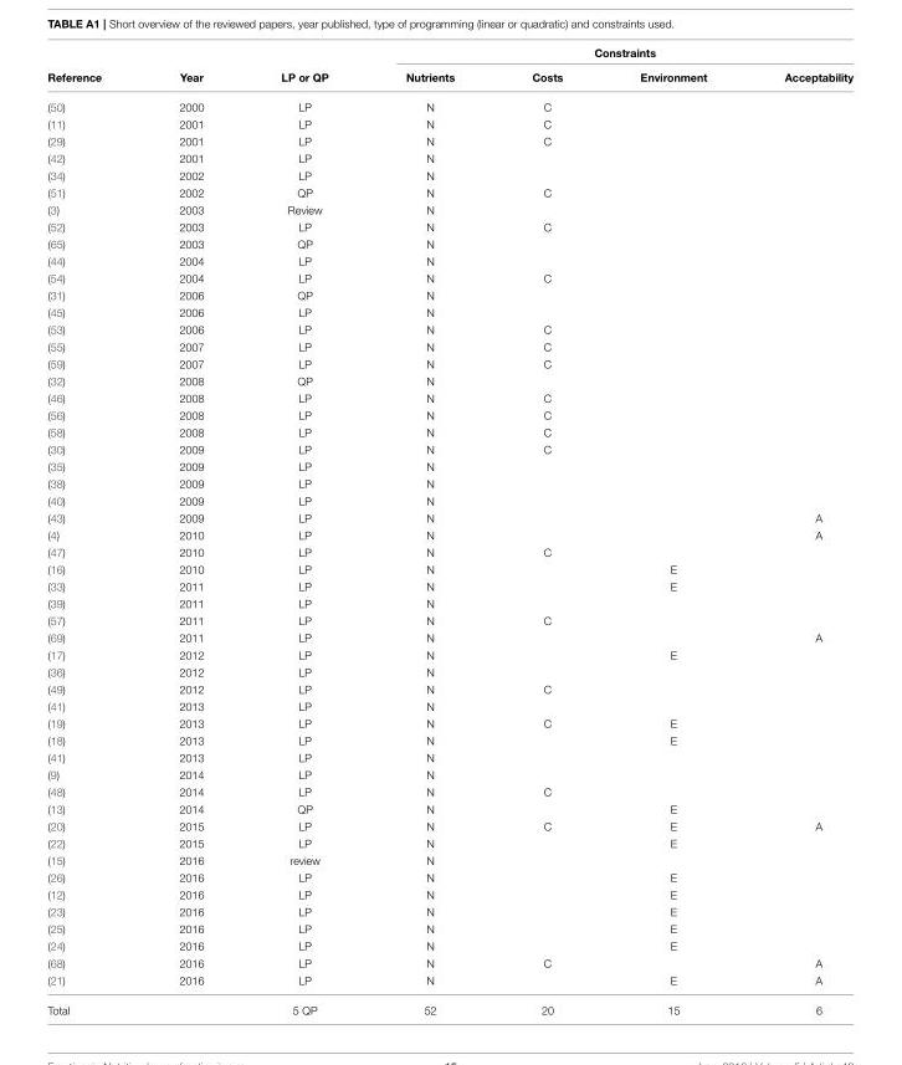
<table><thead><tr><td rowspan="2">Reference</td><td rowspan="2">Year</td><td rowspan="2">LP or QP</td><td colspan="4">Constraints</td></tr><tr><td>Nutrients</td><td>Costs</td><td>Environment</td><td>Acceptability</td></tr></thead><tbody><tr><td>(50)</td><td>2000</td><td>LP</td><td>N</td><td>C</td><td></td><td></td></tr><tr><td>(11)</td><td>2001</td><td>LP</td><td>N</td><td>C</td><td></td><td></td></tr><tr><td>(29)</td><td>2001</td><td>LP</td><td>N</td><td>C</td><td></td><td></td></tr><tr><td>(42)</td><td>2001</td><td>LP</td><td>N</td><td></td><td></td><td></td></tr><tr><td>(34)</td><td>2002</td><td>LP</td><td>N</td><td></td><td></td><td></td></tr><tr><td>(51)</td><td>2002</td><td>QP</td><td>N</td><td>C</td><td></td><td></td></tr><tr><td>(3)</td><td>2003</td><td>Review</td><td>N</td><td></td><td></td><td></td></tr><tr><td>(52)</td><td>2003</td><td>LP</td><td>N</td><td>C</td><td></td><td></td></tr><tr><td>(65)</td><td>2003</td><td>QP</td><td>N</td><td></td><td></td><td></td></tr><tr><td>(44)</td><td>2004</td><td>LP</td><td>N</td><td></td><td></td><td></td></tr><tr><td>(54)</td><td>2004</td><td>LP</td><td>N</td><td>C</td><td></td><td></td></tr><tr><td>(31)</td><td>2006</td><td>QP</td><td>N</td><td></td><td></td><td></td></tr><tr><td>(45)</td><td>2006</td><td>LP</td><td>N</td><td></td><td></td><td></td></tr><tr><td>(53)</td><td>2006</td><td>LP</td><td>N</td><td>C</td><td></td><td></td></tr><tr><td>(55)</td><td>2007</td><td>LP</td><td>N</td><td>C</td><td></td><td></td></tr><tr><td>(59)</td><td>2007</td><td>LP</td><td>N</td><td>C</td><td></td><td></td></tr><tr><td>(32)</td><td>2008</td><td>QP</td><td>N</td><td></td><td></td><td></td></tr><tr><td>(46)</td><td>2008</td><td>LP</td><td>N</td><td>C</td><td></td><td></td></tr><tr><td>(56)</td><td>2008</td><td>LP</td><td>N</td><td>C</td><td></td><td></td></tr><tr><td>(58)</td><td>2008</td><td>LP</td><td>N</td><td>C</td><td></td><td></td></tr><tr><td>(30)</td><td>2009</td><td>LP</td><td>N</td><td>C</td><td></td><td></td></tr><tr><td>(35)</td><td>2009</td><td>LP</td><td>N</td><td></td><td></td><td></td></tr><tr><td>(38)</td><td>2009</td><td>LP</td><td>N</td><td></td><td></td><td></td></tr><tr><td>(40)</td><td>2009</td><td>LP</td><td>N</td><td></td><td></td><td></td></tr><tr><td>(43)</td><td>2009</td><td>LP</td><td>N</td><td></td><td></td><td>A</td></tr><tr><td>(4)</td><td>2010</td><td>LP</td><td>N</td><td></td><td></td><td>A</td></tr><tr><td>(47)</td><td>2010</td><td>LP</td><td>N</td><td>C</td><td></td><td></td></tr><tr><td>(16)</td><td>2010</td><td>LP</td><td>N</td><td></td><td>E</td><td></td></tr><tr><td>(33)</td><td>2011</td><td>LP</td><td>N</td><td></td><td>E</td><td></td></tr><tr><td>(39)</td><td>2011</td><td>LP</td><td>N</td><td></td><td></td><td></td></tr><tr><td>(57)</td><td>2011</td><td>LP</td><td>N</td><td>C</td><td></td><td></td></tr><tr><td>(69)</td><td>2011</td><td>LP</td><td>N</td><td></td><td></td><td>A</td></tr><tr><td>(17)</td><td>2012</td><td>LP</td><td>N</td><td></td><td>E</td><td></td></tr><tr><td>(36)</td><td>2012</td><td>LP</td><td>N</td><td></td><td></td><td></td></tr><tr><td>(49)</td><td>2012</td><td>LP</td><td>N</td><td>C</td><td></td><td></td></tr><tr><td>(41)</td><td>2013</td><td>LP</td><td>N</td><td></td><td></td><td></td></tr><tr><td>(19)</td><td>2013</td><td>LP</td><td>N</td><td>C</td><td>E</td><td></td></tr><tr><td>(18)</td><td>2013</td><td>LP</td><td>N</td><td></td><td>E</td><td></td></tr><tr><td>(41)</td><td>2013</td><td>LP</td><td>N</td><td></td><td></td><td></td></tr><tr><td>(9)</td><td>2014</td><td>LP</td><td>N</td><td></td><td></td><td></td></tr><tr><td>(48)</td><td>2014</td><td>LP</td><td>N</td><td>C</td><td></td><td></td></tr><tr><td>(13)</td><td>2014</td><td>QP</td><td>N</td><td></td><td>E</td><td></td></tr><tr><td>(20)</td><td>2015</td><td>LP</td><td>N</td><td>C</td><td>E</td><td>A</td></tr><tr><td>(22)</td><td>2015</td><td>LP</td><td>N</td><td></td><td>E</td><td></td></tr><tr><td>(15)</td><td>2016</td><td>review</td><td>N</td><td></td><td></td><td></td></tr><tr><td>(26)</td><td>2016</td><td>LP</td><td>N</td><td></td><td>E</td><td></td></tr><tr><td>(12)</td><td>2016</td><td>LP</td><td>N</td><td></td><td>E</td><td></td></tr><tr><td>(23)</td><td>2016</td><td>LP</td><td>N</td><td></td><td>E</td><td></td></tr><tr><td>(25)</td><td>2016</td><td>LP</td><td>N</td><td></td><td>E</td><td></td></tr><tr><td>(24)</td><td>2016</td><td>LP</td><td>N</td><td></td><td>E</td><td></td></tr><tr><td>(68)</td><td>2016</td><td>LP</td><td>N</td><td>C</td><td></td><td>A</td></tr><tr><td>(21)</td><td>2016</td><td>LP</td><td>N</td><td></td><td>E</td><td>A</td></tr><tr><td>Total</td><td></td><td>5 QP</td><td>52</td><td>20</td><td>15</td><td>6</td></tr></tbody></table>